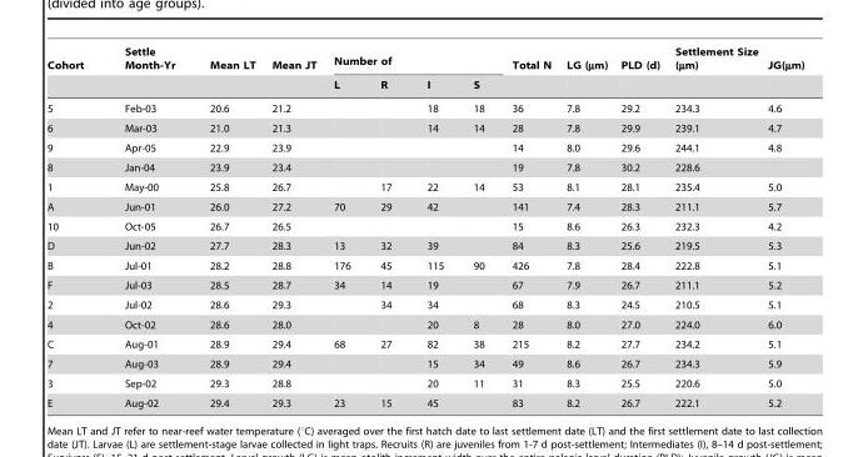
<table><thead><tr><td rowspan="2">Cohort</td><td rowspan="2">Settle Month-Yr</td><td rowspan="2">Mean LT</td><td rowspan="2">Mean JT</td><td colspan="4">Number of</td><td rowspan="2">Total N</td><td rowspan="2">LG (µm)</td><td rowspan="2">PLD (d)</td><td rowspan="2">Settlement Size (µm)</td><td rowspan="2">JG(µm)</td></tr><tr><td>L</td><td>R</td><td>I</td><td>S</td></tr></thead><tbody><tr><td>5</td><td>Feb-03</td><td>20.6</td><td>21.2</td><td></td><td></td><td>18</td><td>18</td><td>36</td><td>7.8</td><td>29.2</td><td>234.3</td><td>4.6</td></tr><tr><td>6</td><td>Mar-03</td><td>21.0</td><td>21.3</td><td></td><td></td><td>14</td><td>14</td><td>28</td><td>7.8</td><td>29.9</td><td>239.1</td><td>4.7</td></tr><tr><td>9</td><td>Apr-05</td><td>22.9</td><td>23.9</td><td></td><td></td><td></td><td></td><td>14</td><td>8.0</td><td>29.6</td><td>244.1</td><td>4.8</td></tr><tr><td>8</td><td>Jan-04</td><td>23.9</td><td>23.4</td><td></td><td></td><td></td><td></td><td>19</td><td>7.8</td><td>30.2</td><td>228.6</td><td></td></tr><tr><td>1</td><td>May-00</td><td>25.8</td><td>26.7</td><td></td><td>17</td><td>22</td><td>14</td><td>53</td><td>8.1</td><td>28.1</td><td>235.4</td><td>5.0</td></tr><tr><td>A</td><td>Jun-01</td><td>26.0</td><td>27.2</td><td>70</td><td>29</td><td>42</td><td></td><td>141</td><td>7.4</td><td>28.3</td><td>211.1</td><td>5.7</td></tr><tr><td>10</td><td>Oct-05</td><td>26.7</td><td>26.5</td><td></td><td></td><td></td><td></td><td>15</td><td>8.6</td><td>26.3</td><td>232.3</td><td>4.2</td></tr><tr><td>D</td><td>Jun-02</td><td>27.7</td><td>28.3</td><td>13</td><td>32</td><td>39</td><td></td><td>84</td><td>8.3</td><td>25.6</td><td>219.5</td><td>5.3</td></tr><tr><td>B</td><td>Jul-01</td><td>28.2</td><td>28.8</td><td>176</td><td>45</td><td>115</td><td>90</td><td>426</td><td>7.8</td><td>28.4</td><td>222.8</td><td>5.1</td></tr><tr><td>F</td><td>Jul-03</td><td>28.5</td><td>28.7</td><td>34</td><td>14</td><td>19</td><td></td><td>67</td><td>7.9</td><td>26.7</td><td>211.1</td><td>5.2</td></tr><tr><td>2</td><td>Jul-02</td><td>28.6</td><td>29.3</td><td></td><td>34</td><td>34</td><td></td><td>68</td><td>8.3</td><td>24.5</td><td>210.5</td><td>5.1</td></tr><tr><td>4</td><td>Oct-02</td><td>28.6</td><td>28.0</td><td></td><td></td><td>20</td><td>8</td><td>28</td><td>8.0</td><td>27.0</td><td>224.0</td><td>6.0</td></tr><tr><td>C</td><td>Aug-01</td><td>28.9</td><td>29.4</td><td>68</td><td>27</td><td>82</td><td>38</td><td>215</td><td>8.2</td><td>27.7</td><td>234.2</td><td>5.1</td></tr><tr><td>7</td><td>Aug-03</td><td>28.9</td><td>29.4</td><td></td><td></td><td>15</td><td>34</td><td>49</td><td>8.6</td><td>26.7</td><td>234.3</td><td>5.9</td></tr><tr><td>3</td><td>Sep-02</td><td>29.3</td><td>28.8</td><td></td><td></td><td>20</td><td>11</td><td>31</td><td>8.3</td><td>25.5</td><td>220.6</td><td>5.0</td></tr><tr><td>E</td><td>Aug-02</td><td>29.4</td><td>29.3</td><td>23</td><td>15</td><td>45</td><td></td><td>83</td><td>8.2</td><td>26.7</td><td>222.1</td><td>5.2</td></tr></tbody></table>